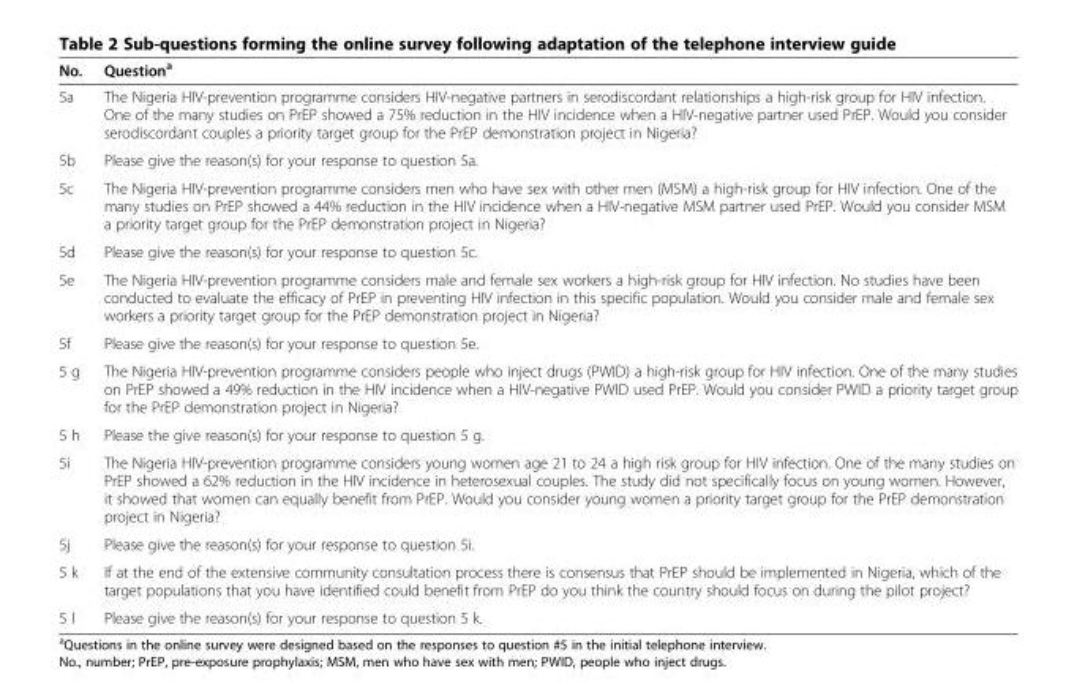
<table><thead><tr><td>No.</td><td>Question<sup>a</sup></td></tr></thead><tbody><tr><td>5a</td><td>The Nigeria HIV-prevention programme considers HIV-negative partners in serodiscordant relationships a high-risk group for HIV infection. One of the many studies on PrEP showed a 75% reduction in the HIV incidence when a HIV-negative partner used PrEP. Would you consider serodiscordant couples a priority target group for the PrEP demonstration project in Nigeria?</td></tr><tr><td>5b</td><td>Please give the reason(s) for your response to question 5a.</td></tr><tr><td>5c</td><td>The Nigeria HIV-prevention programme considers men who have sex with other men (MSM) a high-risk group for HIV infection. One of the many studies on PrEP showed a 44% reduction in the HIV incidence when a HIV-negative MSM partner used PrEP. Would you consider MSM a priority target group for the PrEP demonstration project in Nigeria?</td></tr><tr><td>5d</td><td>Please give the reason(s) for your response to question 5c.</td></tr><tr><td>5e</td><td>The Nigeria HIV-prevention programme considers male and female sex workers a high-risk group for HIV infection. No studies have been conducted to evaluate the efficacy of PrEP in preventing HIV infection in this specific population. Would you consider male and female sex workers a priority target group for the PrEP demonstration project in Nigeria?</td></tr><tr><td>5f</td><td>Please give the reason(s) for your response to question 5e.</td></tr><tr><td>5 g</td><td>The Nigeria HIV-prevention programme considers people who inject drugs (PWID) a high-risk group for HIV infection. One of the many studies on PrEP showed a 49% reduction in the HIV incidence when a HIV-negative PWID used PrEP. Would you consider PWID a priority target group for the PrEP demonstration project in Nigeria?</td></tr><tr><td>5 h</td><td>Please the give reason(s) for your response to question 5 g.</td></tr><tr><td>5i</td><td>The Nigeria HIV-prevention programme considers young women age 21 to 24 a high risk group for HIV infection. One of the many studies on PrEP showed a 62% reduction in the HIV incidence in heterosexual couples. The study did not specifically focus on young women. However, it showed that women can equally benefit from PrEP. Would you consider young women a priority target group for the PrEP demonstration project in Nigeria?</td></tr><tr><td>5j</td><td>Please give the reason(s) for your response to question 5i.</td></tr><tr><td>5 k</td><td>If at the end of the extensive community consultation process there is consensus that PrEP should be implemented in Nigeria, which of the target populations that you have identified could benefit from PrEP do you think the country should focus on during the pilot project?</td></tr><tr><td>5 l</td><td>Please give the reason(s) for your response to question 5 k.</td></tr></tbody></table>